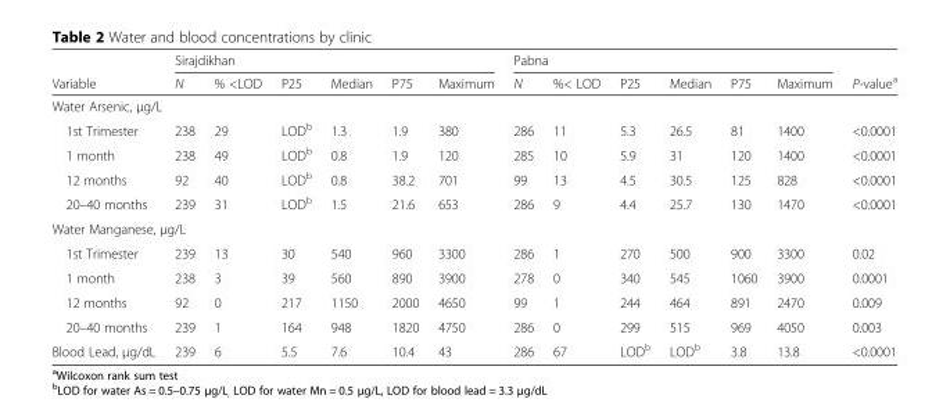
<table><thead><tr><td rowspan="2">Variable</td><td colspan="6">Sirajdikhan</td><td colspan="6">Pabna</td><td rowspan="2">P-value<sup>a</sup></td></tr><tr><td>N</td><td>% &lt;LOD</td><td>P25</td><td>Median</td><td>P75</td><td>Maximum</td><td>N</td><td>%&lt; LOD</td><td>P25</td><td>Median</td><td>P75</td><td>Maximum</td></tr></thead><tbody><tr><td colspan="14">Water Arsenic, μg/L</td></tr><tr><td>1st Trimester</td><td>238</td><td>29</td><td>LOD<sup>b</sup></td><td>1.3</td><td>1.9</td><td>380</td><td>286</td><td>11</td><td>5.3</td><td>26.5</td><td>81</td><td>1400</td><td>&lt;0.0001</td></tr><tr><td>1 month</td><td>238</td><td>49</td><td>LOD<sup>b</sup></td><td>0.8</td><td>1.9</td><td>120</td><td>285</td><td>10</td><td>5.9</td><td>31</td><td>120</td><td>1400</td><td>&lt;0.0001</td></tr><tr><td>12 months</td><td>92</td><td>40</td><td>LOD<sup>b</sup></td><td>0.8</td><td>38.2</td><td>701</td><td>99</td><td>13</td><td>4.5</td><td>30.5</td><td>125</td><td>828</td><td>&lt;0.0001</td></tr><tr><td>20–40 months</td><td>239</td><td>31</td><td>LOD<sup>b</sup></td><td>1.5</td><td>21.6</td><td>653</td><td>286</td><td>9</td><td>4.4</td><td>25.7</td><td>130</td><td>1470</td><td>&lt;0.0001</td></tr><tr><td colspan="14">Water Manganese, μg/L</td></tr><tr><td>1st Trimester</td><td>239</td><td>13</td><td>30</td><td>540</td><td>960</td><td>3300</td><td>286</td><td>1</td><td>270</td><td>500</td><td>900</td><td>3300</td><td>0.02</td></tr><tr><td>1 month</td><td>238</td><td>3</td><td>39</td><td>560</td><td>890</td><td>3900</td><td>278</td><td>0</td><td>340</td><td>545</td><td>1060</td><td>3900</td><td>0.0001</td></tr><tr><td>12 months</td><td>92</td><td>0</td><td>217</td><td>1150</td><td>2000</td><td>4650</td><td>99</td><td>1</td><td>244</td><td>464</td><td>891</td><td>2470</td><td>0.009</td></tr><tr><td>20–40 months</td><td>239</td><td>1</td><td>164</td><td>948</td><td>1820</td><td>4750</td><td>286</td><td>0</td><td>299</td><td>515</td><td>969</td><td>4050</td><td>0.003</td></tr><tr><td>Blood Lead, μg/dL</td><td>239</td><td>6</td><td>5.5</td><td>7.6</td><td>10.4</td><td>43</td><td>286</td><td>67</td><td>LOD<sup>b</sup></td><td>LOD<sup>b</sup></td><td>3.8</td><td>13.8</td><td>&lt;0.0001</td></tr></tbody></table>